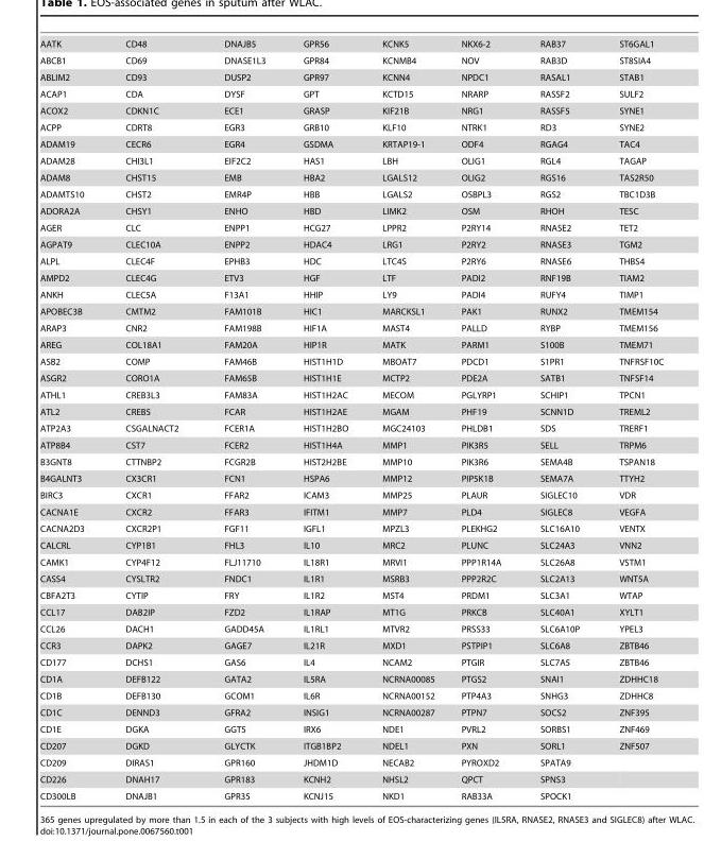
<table><tbody><tr><td>AATK</td><td>CD48</td><td>DNAJB5</td><td>GPR56</td><td>KCNK5</td><td>NKX6-2</td><td>RAB37</td><td>ST6GAL1</td></tr><tr><td>ABCB1</td><td>CD69</td><td>DNASE1L3</td><td>GPR84</td><td>KCNMB4</td><td>NOV</td><td>RAB3D</td><td>ST8SIA4</td></tr><tr><td>ABLIM2</td><td>CD93</td><td>DUSP2</td><td>GPR97</td><td>KCNN4</td><td>NPDC1</td><td>RASAL1</td><td>STAB1</td></tr><tr><td>ACAP1</td><td>CDA</td><td>DYSF</td><td>GPT</td><td>KCTD15</td><td>NRARP</td><td>RASSF2</td><td>SULF2</td></tr><tr><td>ACOX2</td><td>CDKN1C</td><td>ECE1</td><td>GRASP</td><td>KIF21B</td><td>NRG1</td><td>RASSF5</td><td>SYNE1</td></tr><tr><td>ACPP</td><td>CDRT8</td><td>EGR3</td><td>GRB10</td><td>KLF10</td><td>NTRK1</td><td>RD3</td><td>SYNE2</td></tr><tr><td>ADAM19</td><td>CECR6</td><td>EGR4</td><td>GSDMA</td><td>KRTAP19-1</td><td>ODF4</td><td>RGAG4</td><td>TAC4</td></tr><tr><td>ADAM28</td><td>CHI3L1</td><td>EIF2C2</td><td>HAS1</td><td>LBH</td><td>OLIG1</td><td>RGL4</td><td>TAGAP</td></tr><tr><td>ADAM8</td><td>CHST15</td><td>EMB</td><td>HBA2</td><td>LGALS12</td><td>OLIG2</td><td>RGS16</td><td>TAS2R50</td></tr><tr><td>ADAMTS10</td><td>CHST2</td><td>EMR4P</td><td>HBB</td><td>LGALS2</td><td>OSBPL3</td><td>RGS2</td><td>TBC1D3B</td></tr><tr><td>ADORA2A</td><td>CHSY1</td><td>ENHO</td><td>HBD</td><td>LIMK2</td><td>OSM</td><td>RHOH</td><td>TESC</td></tr><tr><td>AGER</td><td>CLC</td><td>ENPP1</td><td>HCG27</td><td>LPPR2</td><td>P2RY14</td><td>RNASE2</td><td>TET2</td></tr><tr><td>AGPAT9</td><td>CLEC10A</td><td>ENPP2</td><td>HDAC4</td><td>LRG1</td><td>P2RY2</td><td>RNASE3</td><td>TGM2</td></tr><tr><td>ALPL</td><td>CLEC4F</td><td>EPHB3</td><td>HDC</td><td>LTC4S</td><td>P2RY6</td><td>RNASE6</td><td>THBS4</td></tr><tr><td>AMPD2</td><td>CLEC4G</td><td>ETV3</td><td>HGF</td><td>LTF</td><td>PADI2</td><td>RNF19B</td><td>TIAM2</td></tr><tr><td>ANKH</td><td>CLEC5A</td><td>F13A1</td><td>HHIP</td><td>LY9</td><td>PADI4</td><td>RUFY4</td><td>TIMP1</td></tr><tr><td>APOBEC3B</td><td>CMTM2</td><td>FAM101B</td><td>HIC1</td><td>MARCKSL1</td><td>PAK1</td><td>RUNX2</td><td>TMEM154</td></tr><tr><td>ARAP3</td><td>CNR2</td><td>FAM198B</td><td>HIF1A</td><td>MAST4</td><td>PALLD</td><td>RYBP</td><td>TMEM156</td></tr><tr><td>AREG</td><td>COL18A1</td><td>FAM20A</td><td>HIP1R</td><td>MATK</td><td>PARM1</td><td>S100B</td><td>TMEM71</td></tr><tr><td>ASB2</td><td>COMP</td><td>FAM46B</td><td>HIST1H1D</td><td>MBOAT7</td><td>PDCD1</td><td>S1PR1</td><td>TNFRSF10C</td></tr><tr><td>ASGR2</td><td>CORO1A</td><td>FAM65B</td><td>HIST1H1E</td><td>MCTP2</td><td>PDE2A</td><td>SATB1</td><td>TNFSF14</td></tr><tr><td>ATHL1</td><td>CREB3L3</td><td>FAM83A</td><td>HIST1H2AC</td><td>MECOM</td><td>PGLYRP1</td><td>SCHIP1</td><td>TPCN1</td></tr><tr><td>ATL2</td><td>CREB5</td><td>FCAR</td><td>HIST1H2AE</td><td>MGAM</td><td>PHF19</td><td>SCNN1D</td><td>TREML2</td></tr><tr><td>ATP2A3</td><td>CSGALNACT2</td><td>FCER1A</td><td>HIST1H2BO</td><td>MGC24103</td><td>PHLDB1</td><td>SDS</td><td>TRERF1</td></tr><tr><td>ATP8B4</td><td>CST7</td><td>FCER2</td><td>HIST1H4A</td><td>MMP1</td><td>PIK3R5</td><td>SELL</td><td>TRPM6</td></tr><tr><td>B3GNT8</td><td>CTTNBP2</td><td>FCGR2B</td><td>HIST2H2BE</td><td>MMP10</td><td>PIK3R6</td><td>SEMA4B</td><td>TSPAN18</td></tr><tr><td>B4GALNT3</td><td>CX3CR1</td><td>FCN1</td><td>HSPA6</td><td>MMP12</td><td>PIP5K1B</td><td>SEMA7A</td><td>TTYH2</td></tr><tr><td>BIRC3</td><td>CXCR1</td><td>FFAR2</td><td>ICAM3</td><td>MMP25</td><td>PLAUR</td><td>SIGLEC10</td><td>VDR</td></tr><tr><td>CACNA1E</td><td>CXCR2</td><td>FFAR3</td><td>IFITM1</td><td>MMP7</td><td>PLD4</td><td>SIGLEC8</td><td>VEGFA</td></tr><tr><td>CACNA2D3</td><td>CXCR2P1</td><td>FGF11</td><td>IGFL1</td><td>MPZL3</td><td>PLEKHG2</td><td>SLC16A10</td><td>VENTX</td></tr><tr><td>CALCRL</td><td>CYP1B1</td><td>FHL3</td><td>IL10</td><td>MRC2</td><td>PLUNC</td><td>SLC24A3</td><td>VNN2</td></tr><tr><td>CAMK1</td><td>CYP4F12</td><td>FLJ11710</td><td>IL18R1</td><td>MRVI1</td><td>PPP1R14A</td><td>SLC26A8</td><td>VSTM1</td></tr><tr><td>CASS4</td><td>CYSLTR2</td><td>FNDC1</td><td>IL1R1</td><td>MSRB3</td><td>PPP2R2C</td><td>SLC2A13</td><td>WNT5A</td></tr><tr><td>CBFA2T3</td><td>CYTIP</td><td>FRY</td><td>IL1R2</td><td>MST4</td><td>PRDM1</td><td>SLC3A1</td><td>WTAP</td></tr><tr><td>CCL17</td><td>DAB2IP</td><td>FZD2</td><td>IL1RAP</td><td>MT1G</td><td>PRKCB</td><td>SLC40A1</td><td>XYLT1</td></tr><tr><td>CCL26</td><td>DACH1</td><td>GADD45A</td><td>IL1RL1</td><td>MTVR2</td><td>PRSS33</td><td>SLC6A10P</td><td>YPEL3</td></tr><tr><td>CCR3</td><td>DAPK2</td><td>GAGE7</td><td>IL21R</td><td>MXD1</td><td>PSTPIP1</td><td>SLC6A8</td><td>ZBTB46</td></tr><tr><td>CD177</td><td>DCHS1</td><td>GAS6</td><td>IL4</td><td>NCAM2</td><td>PTGIR</td><td>SLC7A5</td><td>ZBTB46</td></tr><tr><td>CD1A</td><td>DEFB122</td><td>GATA2</td><td>IL5RA</td><td>NCRNA00085</td><td>PTGS2</td><td>SNAI1</td><td>ZDHHC18</td></tr><tr><td>CD1B</td><td>DEFB130</td><td>GCOM1</td><td>IL6R</td><td>NCRNA00152</td><td>PTP4A3</td><td>SNHG3</td><td>ZDHHC8</td></tr><tr><td>CD1C</td><td>DENND3</td><td>GFRA2</td><td>INSIG1</td><td>NCRNA00287</td><td>PTPN7</td><td>SOCS2</td><td>ZNF395</td></tr><tr><td>CD1E</td><td>DGKA</td><td>GGT5</td><td>IRX6</td><td>NDE1</td><td>PVRL2</td><td>SORBS1</td><td>ZNF469</td></tr><tr><td>CD207</td><td>DGKD</td><td>GLYCTK</td><td>ITGB1BP2</td><td>NDEL1</td><td>PXN</td><td>SORL1</td><td>ZNF507</td></tr><tr><td>CD209</td><td>DIRAS1</td><td>GPR160</td><td>JHDM1D</td><td>NECAB2</td><td>PYROXD2</td><td>SPATA9</td><td></td></tr><tr><td>CD226</td><td>DNAH17</td><td>GPR183</td><td>KCNH2</td><td>NHSL2</td><td>QPCT</td><td>SPNS3</td><td></td></tr><tr><td>CD300LB</td><td>DNAJB1</td><td>GPR35</td><td>KCNJ15</td><td>NKD1</td><td>RAB33A</td><td>SPOCK1</td><td></td></tr></tbody></table>